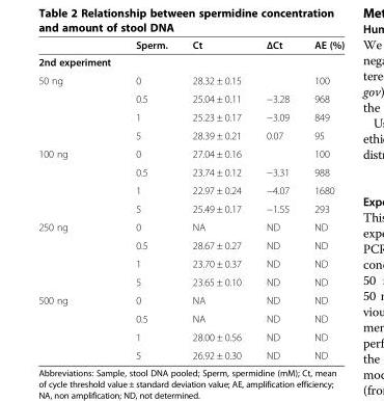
<table><thead><tr><td></td><td>Sperm.</td><td>Ct</td><td>ΔCt</td><td>AE (%)</td></tr></thead><tbody><tr><td colspan="5">2nd experiment</td></tr><tr><td rowspan="4">50 ng</td><td>0</td><td>28.32 ± 0.15</td><td></td><td>100</td></tr><tr><td>0.5</td><td>25.04 ± 0.11</td><td>−3.28</td><td>968</td></tr><tr><td>1</td><td>25.23 ± 0.17</td><td>−3.09</td><td>849</td></tr><tr><td>5</td><td>28.39 ± 0.21</td><td>0.07</td><td>95</td></tr><tr><td rowspan="4">100 ng</td><td>0</td><td>27.04 ± 0.16</td><td></td><td>100</td></tr><tr><td>0.5</td><td>23.74 ± 0.12</td><td>−3.31</td><td>988</td></tr><tr><td>1</td><td>22.97 ± 0.24</td><td>−4.07</td><td>1680</td></tr><tr><td>5</td><td>25.49 ± 0.17</td><td>−1.55</td><td>293</td></tr><tr><td rowspan="4">250 ng</td><td>0</td><td>NA</td><td>ND</td><td>ND</td></tr><tr><td>0.5</td><td>28.67 ± 0.27</td><td>ND</td><td>ND</td></tr><tr><td>1</td><td>23.70 ± 0.37</td><td>ND</td><td>ND</td></tr><tr><td>5</td><td>23.65 ± 0.10</td><td>ND</td><td>ND</td></tr><tr><td rowspan="4">500 ng</td><td>0</td><td>NA</td><td>ND</td><td>ND</td></tr><tr><td>0.5</td><td>NA</td><td>ND</td><td>ND</td></tr><tr><td>1</td><td>28.00 ± 0.56</td><td>ND</td><td>ND</td></tr><tr><td>5</td><td>26.92 ± 0.30</td><td>ND</td><td>ND</td></tr></tbody></table>